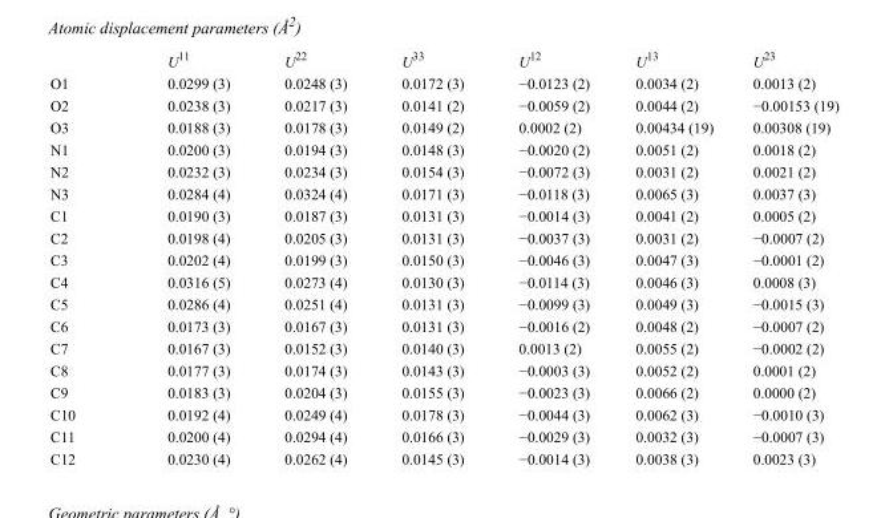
<table><thead><tr><td></td><td>U<sup>11</sup></td><td>U<sup>22</sup></td><td>U<sup>33</sup></td><td>U<sup>12</sup></td><td>U<sup>13</sup></td><td>U<sup>23</sup></td></tr></thead><tbody><tr><td>O1</td><td>0.0299 (3)</td><td>0.0248 (3)</td><td>0.0172 (3)</td><td>−0.0123 (2)</td><td>0.0034 (2)</td><td>0.0013 (2)</td></tr><tr><td>O2</td><td>0.0238 (3)</td><td>0.0217 (3)</td><td>0.0141 (2)</td><td>−0.0059 (2)</td><td>0.0044 (2)</td><td>−0.00153 (19)</td></tr><tr><td>O3</td><td>0.0188 (3)</td><td>0.0178 (3)</td><td>0.0149 (2)</td><td>0.0002 (2)</td><td>0.00434 (19)</td><td>0.00308 (19)</td></tr><tr><td>N1</td><td>0.0200 (3)</td><td>0.0194 (3)</td><td>0.0148 (3)</td><td>−0.0020 (2)</td><td>0.0051 (2)</td><td>0.0018 (2)</td></tr><tr><td>N2</td><td>0.0232 (3)</td><td>0.0234 (3)</td><td>0.0154 (3)</td><td>−0.0072 (3)</td><td>0.0031 (2)</td><td>0.0021 (2)</td></tr><tr><td>N3</td><td>0.0284 (4)</td><td>0.0324 (4)</td><td>0.0171 (3)</td><td>−0.0118 (3)</td><td>0.0065 (3)</td><td>0.0037 (3)</td></tr><tr><td>C1</td><td>0.0190 (3)</td><td>0.0187 (3)</td><td>0.0131 (3)</td><td>−0.0014 (3)</td><td>0.0041 (2)</td><td>0.0005 (2)</td></tr><tr><td>C2</td><td>0.0198 (4)</td><td>0.0205 (3)</td><td>0.0131 (3)</td><td>−0.0037 (3)</td><td>0.0031 (2)</td><td>−0.0007 (2)</td></tr><tr><td>C3</td><td>0.0202 (4)</td><td>0.0199 (3)</td><td>0.0150 (3)</td><td>−0.0046 (3)</td><td>0.0047 (3)</td><td>−0.0001 (2)</td></tr><tr><td>C4</td><td>0.0316 (5)</td><td>0.0273 (4)</td><td>0.0130 (3)</td><td>−0.0114 (3)</td><td>0.0046 (3)</td><td>0.0008 (3)</td></tr><tr><td>C5</td><td>0.0286 (4)</td><td>0.0251 (4)</td><td>0.0131 (3)</td><td>−0.0099 (3)</td><td>0.0049 (3)</td><td>−0.0015 (3)</td></tr><tr><td>C6</td><td>0.0173 (3)</td><td>0.0167 (3)</td><td>0.0131 (3)</td><td>−0.0016 (2)</td><td>0.0048 (2)</td><td>−0.0007 (2)</td></tr><tr><td>C7</td><td>0.0167 (3)</td><td>0.0152 (3)</td><td>0.0140 (3)</td><td>0.0013 (2)</td><td>0.0055 (2)</td><td>−0.0002 (2)</td></tr><tr><td>C8</td><td>0.0177 (3)</td><td>0.0174 (3)</td><td>0.0143 (3)</td><td>−0.0003 (3)</td><td>0.0052 (2)</td><td>0.0001 (2)</td></tr><tr><td>C9</td><td>0.0183 (3)</td><td>0.0204 (3)</td><td>0.0155 (3)</td><td>−0.0023 (3)</td><td>0.0066 (2)</td><td>0.0000 (2)</td></tr><tr><td>C10</td><td>0.0192 (4)</td><td>0.0249 (4)</td><td>0.0178 (3)</td><td>−0.0044 (3)</td><td>0.0062 (3)</td><td>−0.0010 (3)</td></tr><tr><td>C11</td><td>0.0200 (4)</td><td>0.0294 (4)</td><td>0.0166 (3)</td><td>−0.0029 (3)</td><td>0.0032 (3)</td><td>−0.0007 (3)</td></tr><tr><td>C12</td><td>0.0230 (4)</td><td>0.0262 (4)</td><td>0.0145 (3)</td><td>−0.0014 (3)</td><td>0.0038 (3)</td><td>0.0023 (3)</td></tr></tbody></table>